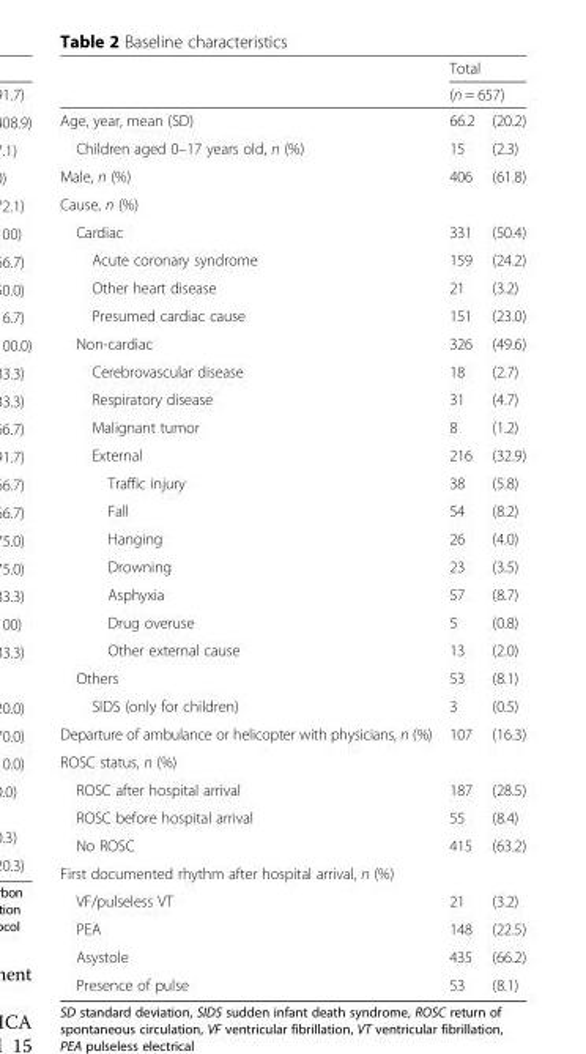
<table><thead><tr><td rowspan="3">Age, year, mean (SD)</td><td rowspan="2" colspan="2">Total (n = 657)</td></tr><tr></tr><tr><td>66.2</td><td>(20.2)</td></tr></thead><tbody><tr><td>Children aged 0–17 years old, n (%)</td><td>15</td><td>(2.3)</td></tr><tr><td>Male, n (%)</td><td>406</td><td>(61.8)</td></tr><tr><td colspan="3">Cause, n (%)</td></tr><tr><td>Cardiac</td><td>331</td><td>(50.4)</td></tr><tr><td>Acute coronary syndrome</td><td>159</td><td>(24.2)</td></tr><tr><td>Other heart disease</td><td>21</td><td>(3.2)</td></tr><tr><td>Presumed cardiac cause</td><td>151</td><td>(23.0)</td></tr><tr><td>Non-cardiac</td><td>326</td><td>(49.6)</td></tr><tr><td>Cerebrovascular disease</td><td>18</td><td>(2.7)</td></tr><tr><td>Respiratory disease</td><td>31</td><td>(4.7)</td></tr><tr><td>Malignant tumor</td><td>8</td><td>(1.2)</td></tr><tr><td>External</td><td>216</td><td>(32.9)</td></tr><tr><td>Traffic injury</td><td>38</td><td>(5.8)</td></tr><tr><td>Fall</td><td>54</td><td>(8.2)</td></tr><tr><td>Hanging</td><td>26</td><td>(4.0)</td></tr><tr><td>Drowning</td><td>23</td><td>(3.5)</td></tr><tr><td>Asphyxia</td><td>57</td><td>(8.7)</td></tr><tr><td>Drug overuse</td><td>5</td><td>(0.8)</td></tr><tr><td>Other external cause</td><td>13</td><td>(2.0)</td></tr><tr><td>Others</td><td>53</td><td>(8.1)</td></tr><tr><td>SIDS (only for children)</td><td>3</td><td>(0.5)</td></tr><tr><td>Departure of ambulance or helicopter with physicians, n (%)</td><td>107</td><td>(16.3)</td></tr><tr><td colspan="3">ROSC status, n (%)</td></tr><tr><td>ROSC after hospital arrival</td><td>187</td><td>(28.5)</td></tr><tr><td>ROSC before hospital arrival</td><td>55</td><td>(8.4)</td></tr><tr><td>No ROSC</td><td>415</td><td>(63.2)</td></tr><tr><td colspan="3">First documented rhythm after hospital arrival, n (%)</td></tr><tr><td>VF/pulseless VT</td><td>21</td><td>(3.2)</td></tr><tr><td>PEA</td><td>148</td><td>(22.5)</td></tr><tr><td>Asystole</td><td>435</td><td>(66.2)</td></tr><tr><td>Presence of pulse</td><td>53</td><td>(8.1)</td></tr></tbody></table>